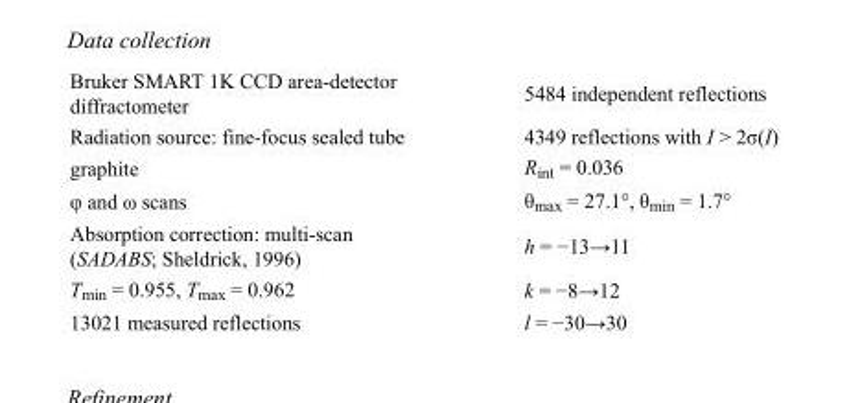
<table><tbody><tr><td>Bruker SMART 1K CCD area-detector diffractometer</td><td>5484 independent reflections</td></tr><tr><td>Radiation source: fine-focus sealed tube</td><td>4349 reflections with I &gt; 2σ(I)</td></tr><tr><td>graphite</td><td>R<sub>int</sub> = 0.036</td></tr><tr><td>φ and ω scans</td><td>θ<sub>max</sub> = 27.1°, θ<sub>min</sub> = 1.7°</td></tr><tr><td>Absorption correction: multi-scan (SADABS; Sheldrick, 1996)</td><td>h = −13→11</td></tr><tr><td>T<sub>min</sub> = 0.955, T<sub>max</sub> = 0.962</td><td>k = −8→12</td></tr><tr><td>13021 measured reflections</td><td>l = −30→30</td></tr></tbody></table>